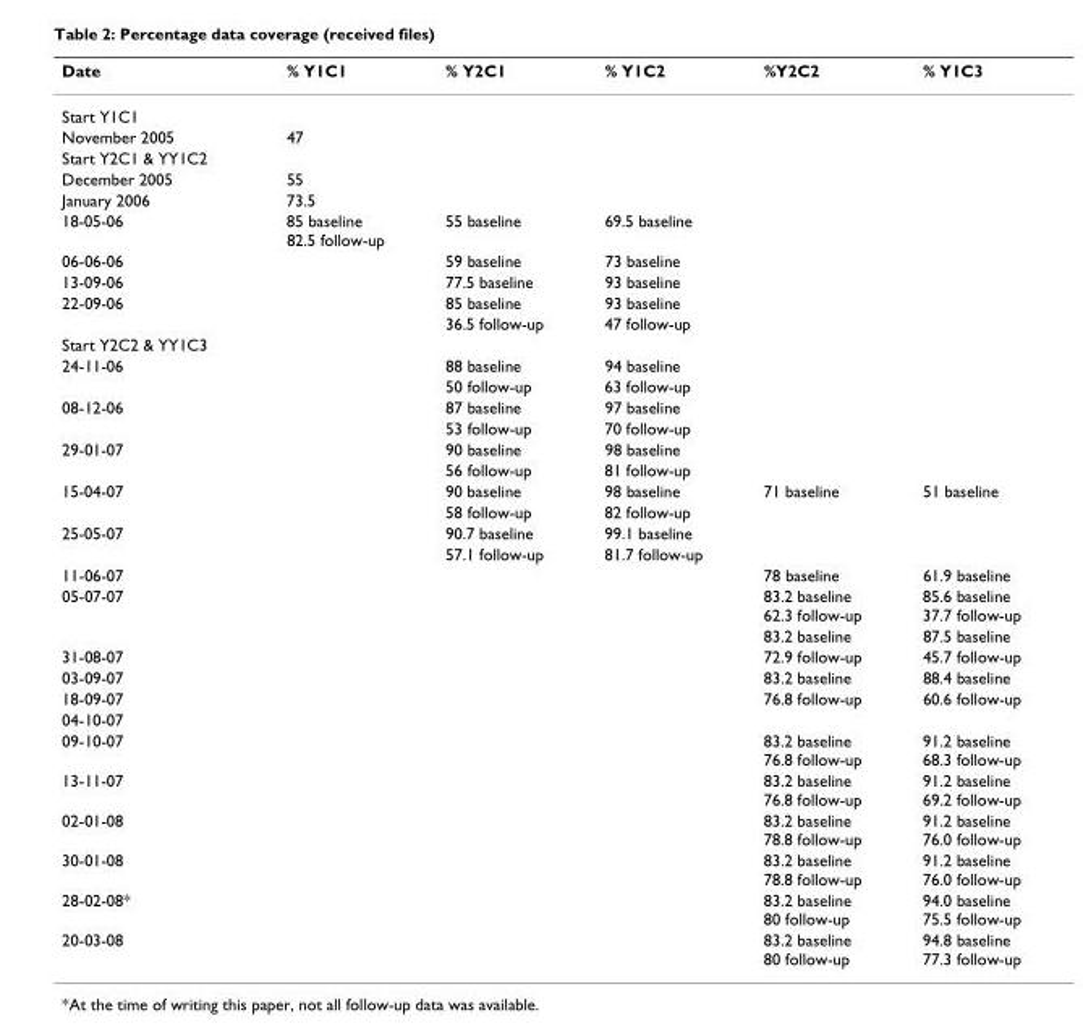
<table><thead><tr><td>Date</td><td>% Y1C1</td><td>% Y2C1</td><td>% Y1C2</td><td>%Y2C2</td><td>% Y1C3</td></tr></thead><tbody><tr><td colspan="6">Start Y1C1</td></tr><tr><td>November 2005</td><td>47</td><td></td><td></td><td></td><td></td></tr><tr><td colspan="6">Start Y2C1 &amp; YY1C2</td></tr><tr><td>December 2005</td><td>55</td><td></td><td></td><td></td><td></td></tr><tr><td>January 2006</td><td>73.5</td><td></td><td></td><td></td><td></td></tr><tr><td>18-05-06</td><td>85 baseline 82.5 follow-up</td><td>55 baseline</td><td>69.5 baseline</td><td></td><td></td></tr><tr><td>06-06-06</td><td></td><td>59 baseline</td><td>73 baseline</td><td></td><td></td></tr><tr><td>13-09-06</td><td></td><td>77.5 baseline</td><td>93 baseline</td><td></td><td></td></tr><tr><td rowspan="2">22-09-06</td><td></td><td>85 baseline</td><td>93 baseline</td><td></td><td></td></tr><tr><td></td><td>36.5 follow-up</td><td>47 follow-up</td><td></td><td></td></tr><tr><td colspan="6">Start Y2C2 &amp; YY1C3</td></tr><tr><td rowspan="2">24-11-06</td><td></td><td>88 baseline</td><td>94 baseline</td><td></td><td></td></tr><tr><td></td><td>50 follow-up</td><td>63 follow-up</td><td></td><td></td></tr><tr><td rowspan="2">08-12-06</td><td></td><td>87 baseline</td><td>97 baseline</td><td></td><td></td></tr><tr><td></td><td>53 follow-up</td><td>70 follow-up</td><td></td><td></td></tr><tr><td rowspan="2">29-01-07</td><td></td><td>90 baseline</td><td>98 baseline</td><td></td><td></td></tr><tr><td></td><td>56 follow-up</td><td>81 follow-up</td><td></td><td></td></tr><tr><td rowspan="2">15-04-07</td><td></td><td>90 baseline</td><td>98 baseline</td><td>71 baseline</td><td>51 baseline</td></tr><tr><td></td><td>58 follow-up</td><td>82 follow-up</td><td></td><td></td></tr><tr><td rowspan="2">25-05-07</td><td></td><td>90.7 baseline</td><td>99.1 baseline</td><td></td><td></td></tr><tr><td></td><td>57.1 follow-up</td><td>81.7 follow-up</td><td></td><td></td></tr><tr><td>11-06-07</td><td></td><td></td><td></td><td>78 baseline</td><td>61.9 baseline</td></tr><tr><td rowspan="2">05-07-07</td><td></td><td></td><td></td><td>83.2 baseline 62.3 follow-up</td><td>85.6 baseline 37.7 follow-up</td></tr><tr><td></td><td></td><td></td><td>83.2 baseline</td><td>87.5 baseline</td></tr><tr><td>31-08-07</td><td></td><td></td><td></td><td>72.9 follow-up</td><td>45.7 follow-up</td></tr><tr><td>03-09-07</td><td></td><td></td><td></td><td>83.2 baseline</td><td>88.4 baseline</td></tr><tr><td>18-09-07</td><td></td><td></td><td></td><td>76.8 follow-up</td><td>60.6 follow-up</td></tr><tr><td colspan="6">04-10-07</td></tr><tr><td>09-10-07</td><td></td><td></td><td></td><td>83.2 baseline 76.8 follow-up</td><td>91.2 baseline 68.3 follow-up</td></tr><tr><td>13-11-07</td><td></td><td></td><td></td><td>83.2 baseline 76.8 follow-up</td><td>91.2 baseline 69.2 follow-up</td></tr><tr><td>02-01-08</td><td></td><td></td><td></td><td>83.2 baseline 78.8 follow-up</td><td>91.2 baseline 76.0 follow-up</td></tr><tr><td>30-01-08</td><td></td><td></td><td></td><td>83.2 baseline 78.8 follow-up</td><td>91.2 baseline 76.0 follow-up</td></tr><tr><td>28-02-08*</td><td></td><td></td><td></td><td>83.2 baseline 80 follow-up</td><td>94.0 baseline 75.5 follow-up</td></tr><tr><td>20-03-08</td><td></td><td></td><td></td><td>83.2 baseline 80 follow-up</td><td>94.8 baseline 77.3 follow-up</td></tr></tbody></table>